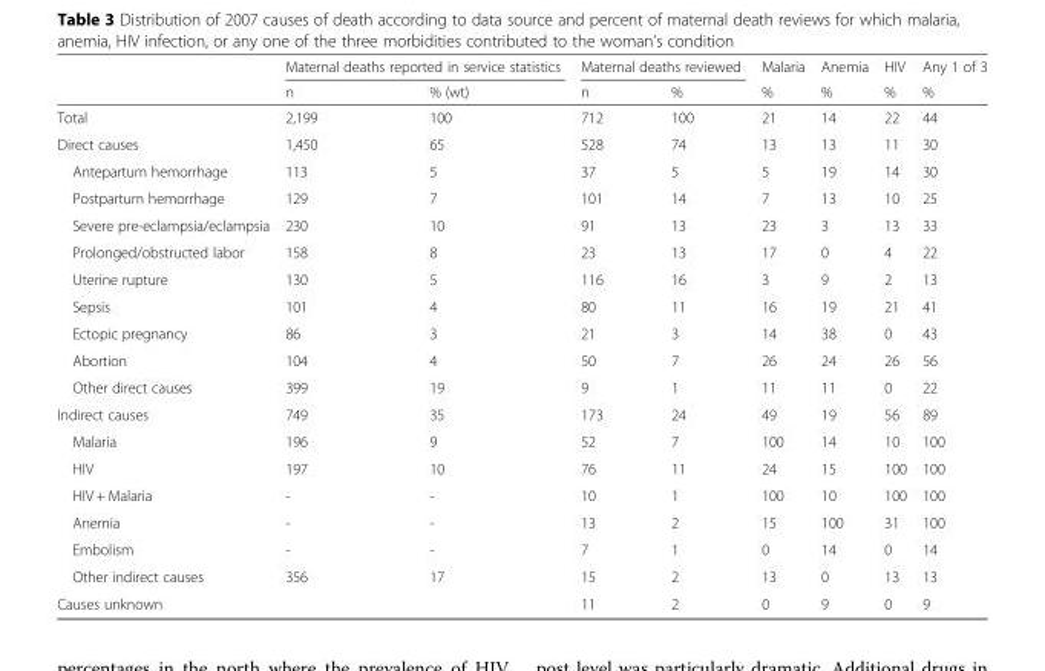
<table><thead><tr><td rowspan="2"></td><td colspan="2">Maternal deaths reported in service statistics</td><td colspan="2">Maternal deaths reviewed</td><td rowspan="2">Malaria %</td><td rowspan="2">Anemia %</td><td rowspan="2">HIV %</td><td rowspan="2">Any 1 of 3 %</td></tr><tr><td>n</td><td>% (wt)</td><td>n</td><td>%</td></tr></thead><tbody><tr><td>Total</td><td>2,199</td><td>100</td><td>712</td><td>100</td><td>21</td><td>14</td><td>22</td><td>44</td></tr><tr><td>Direct causes</td><td>1,450</td><td>65</td><td>528</td><td>74</td><td>13</td><td>13</td><td>11</td><td>30</td></tr><tr><td>Antepartum hemorrhage</td><td>113</td><td>5</td><td>37</td><td>5</td><td>5</td><td>19</td><td>14</td><td>30</td></tr><tr><td>Postpartum hemorrhage</td><td>129</td><td>7</td><td>101</td><td>14</td><td>7</td><td>13</td><td>10</td><td>25</td></tr><tr><td>Severe pre-eclampsia/eclampsia</td><td>230</td><td>10</td><td>91</td><td>13</td><td>23</td><td>3</td><td>13</td><td>33</td></tr><tr><td>Prolonged/obstructed labor</td><td>158</td><td>8</td><td>23</td><td>13</td><td>17</td><td>0</td><td>4</td><td>22</td></tr><tr><td>Uterine rupture</td><td>130</td><td>5</td><td>116</td><td>16</td><td>3</td><td>9</td><td>2</td><td>13</td></tr><tr><td>Sepsis</td><td>101</td><td>4</td><td>80</td><td>11</td><td>16</td><td>19</td><td>21</td><td>41</td></tr><tr><td>Ectopic pregnancy</td><td>86</td><td>3</td><td>21</td><td>3</td><td>14</td><td>38</td><td>0</td><td>43</td></tr><tr><td>Abortion</td><td>104</td><td>4</td><td>50</td><td>7</td><td>26</td><td>24</td><td>26</td><td>56</td></tr><tr><td>Other direct causes</td><td>399</td><td>19</td><td>9</td><td>1</td><td>11</td><td>11</td><td>0</td><td>22</td></tr><tr><td>Indirect causes</td><td>749</td><td>35</td><td>173</td><td>24</td><td>49</td><td>19</td><td>56</td><td>89</td></tr><tr><td>Malaria</td><td>196</td><td>9</td><td>52</td><td>7</td><td>100</td><td>14</td><td>10</td><td>100</td></tr><tr><td>HIV</td><td>197</td><td>10</td><td>76</td><td>11</td><td>24</td><td>15</td><td>100</td><td>100</td></tr><tr><td>HIV + Malaria</td><td>-</td><td>-</td><td>10</td><td>1</td><td>100</td><td>10</td><td>100</td><td>100</td></tr><tr><td>Anemia</td><td>-</td><td>-</td><td>13</td><td>2</td><td>15</td><td>100</td><td>31</td><td>100</td></tr><tr><td>Embolism</td><td>-</td><td>-</td><td>7</td><td>1</td><td>0</td><td>14</td><td>0</td><td>14</td></tr><tr><td>Other indirect causes</td><td>356</td><td>17</td><td>15</td><td>2</td><td>13</td><td>0</td><td>13</td><td>13</td></tr><tr><td>Causes unknown</td><td></td><td></td><td>11</td><td>2</td><td>0</td><td>9</td><td>0</td><td>9</td></tr></tbody></table>